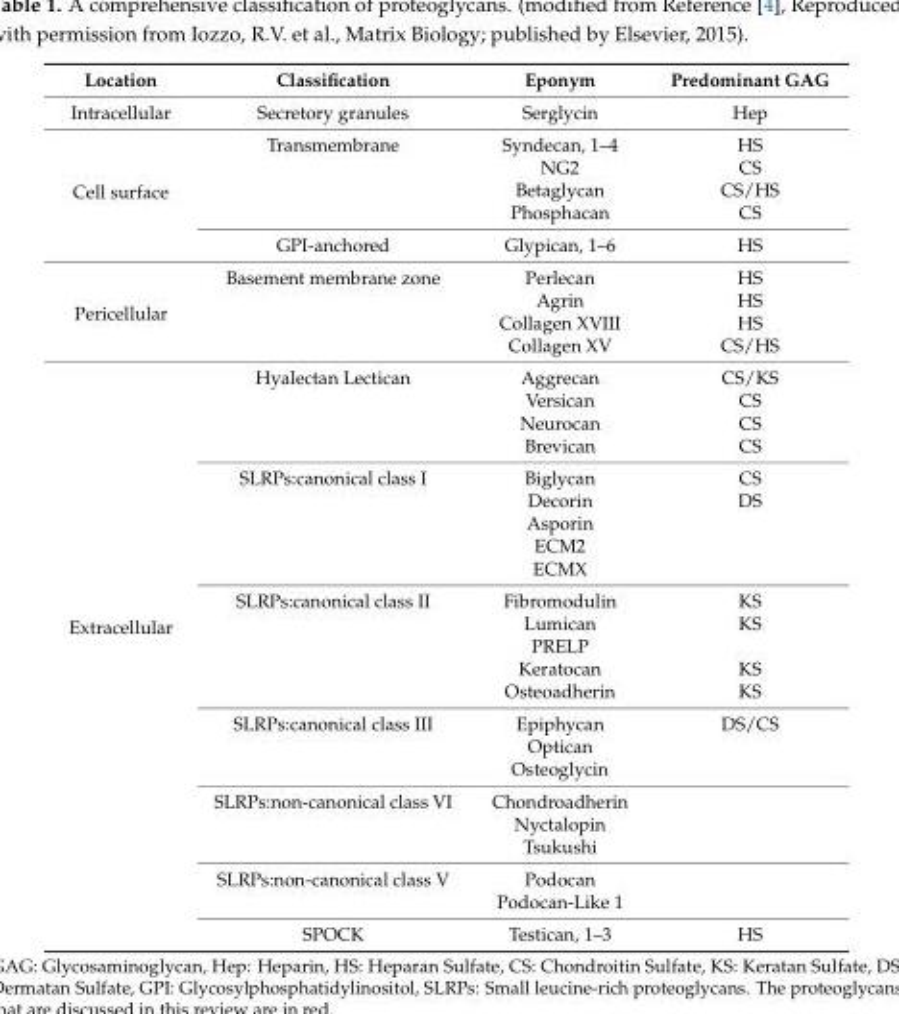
<table><thead><tr><td>Location</td><td>Classification</td><td>Eponym</td><td>Predominant GAG</td></tr></thead><tbody><tr><td>Intracellular</td><td>Secretory granules</td><td>Serglycin</td><td>Hep</td></tr><tr><td rowspan="5">Cell surface</td><td>Transmembrane</td><td>Syndecan, 1–4</td><td>HS</td></tr><tr><td></td><td>NG2</td><td>CS</td></tr><tr><td></td><td>Betaglycan</td><td>CS/HS</td></tr><tr><td></td><td>Phosphacan</td><td>CS</td></tr><tr><td>GPI-anchored</td><td>Glypican, 1–6</td><td>HS</td></tr><tr><td rowspan="4">Pericellular</td><td>Basement membrane zone</td><td>Perlecan</td><td>HS</td></tr><tr><td></td><td>Agrin</td><td>HS</td></tr><tr><td></td><td>Collagen XVIII</td><td>HS</td></tr><tr><td></td><td>Collagen XV</td><td>CS/HS</td></tr><tr><td rowspan="23">Extracellular</td><td>Hyalectan Lectican</td><td>Aggrecan</td><td>CS/KS</td></tr><tr><td></td><td>Versican</td><td>CS</td></tr><tr><td></td><td>Neurocan</td><td>CS</td></tr><tr><td></td><td>Brevican</td><td>CS</td></tr><tr><td>SLRPs:canonical class I</td><td>Biglycan</td><td>CS</td></tr><tr><td></td><td>Decorin</td><td>DS</td></tr><tr><td></td><td>Asporin</td><td></td></tr><tr><td></td><td>ECM2</td><td></td></tr><tr><td></td><td>ECMX</td><td></td></tr><tr><td>SLRPs:canonical class II</td><td>Fibromodulin</td><td>KS</td></tr><tr><td></td><td>Lumican</td><td>KS</td></tr><tr><td></td><td>PRELP</td><td></td></tr><tr><td></td><td>Keratocan</td><td>KS</td></tr><tr><td></td><td>Osteoadherin</td><td>KS</td></tr><tr><td>SLRPs:canonical class III</td><td>Epiphycan</td><td>DS/CS</td></tr><tr><td></td><td>Optican</td><td></td></tr><tr><td></td><td>Osteoglycin</td><td></td></tr><tr><td>SLRPs:non-canonical class VI</td><td>Chondroadherin</td><td></td></tr><tr><td></td><td>Nyctalopin</td><td></td></tr><tr><td></td><td>Tsukushi</td><td></td></tr><tr><td>SLRPs:non-canonical class V</td><td>Podocan</td><td></td></tr><tr><td></td><td>Podocan-Like 1</td><td></td></tr><tr><td>SPOCK</td><td>Testican, 1–3</td><td>HS</td></tr></tbody></table>